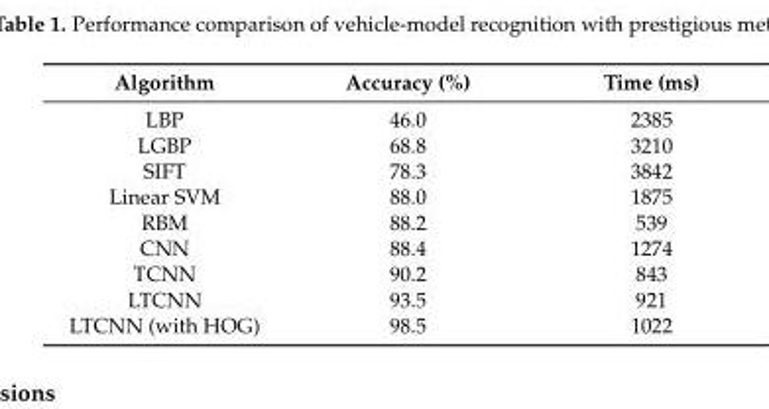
<table><thead><tr><td>Algorithm</td><td>Accuracy (%)</td><td>Time (ms)</td></tr></thead><tbody><tr><td>LBP</td><td>46.0</td><td>2385</td></tr><tr><td>LGBP</td><td>68.8</td><td>3210</td></tr><tr><td>SIFT</td><td>78.3</td><td>3842</td></tr><tr><td>Linear SVM</td><td>88.0</td><td>1875</td></tr><tr><td>RBM</td><td>88.2</td><td>539</td></tr><tr><td>CNN</td><td>88.4</td><td>1274</td></tr><tr><td>TCNN</td><td>90.2</td><td>843</td></tr><tr><td>LTCNN</td><td>93.5</td><td>921</td></tr><tr><td>LTCNN (with HOG)</td><td>98.5</td><td>1022</td></tr></tbody></table>